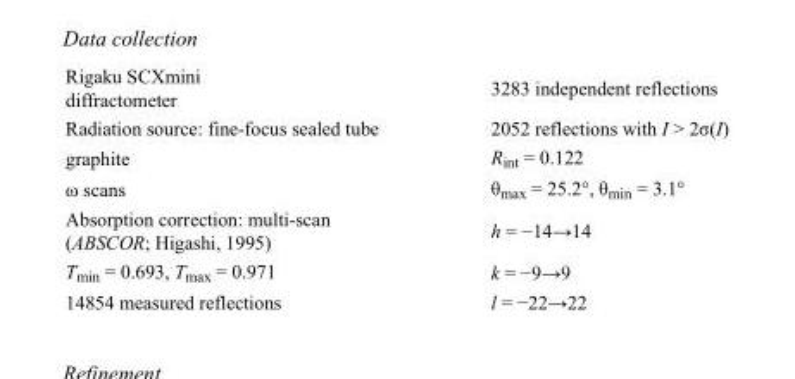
<table><tbody><tr><td>Rigaku SCXmini diffractometer</td><td>3283 independent reflections</td></tr><tr><td>Radiation source: fine-focus sealed tube</td><td>2052 reflections with I &gt; 2σ(I)</td></tr><tr><td>graphite</td><td>R<sub>int</sub> = 0.122</td></tr><tr><td>ω scans</td><td>θ<sub>max</sub> = 25.2°, θ<sub>min</sub> = 3.1°</td></tr><tr><td>Absorption correction: multi-scan (ABSCOR; Higashi, 1995)</td><td>h = −14→14</td></tr><tr><td>T<sub>min</sub> = 0.693, T<sub>max</sub> = 0.971</td><td>k = −9→9</td></tr><tr><td>14854 measured reflections</td><td>l = −22→22</td></tr></tbody></table>